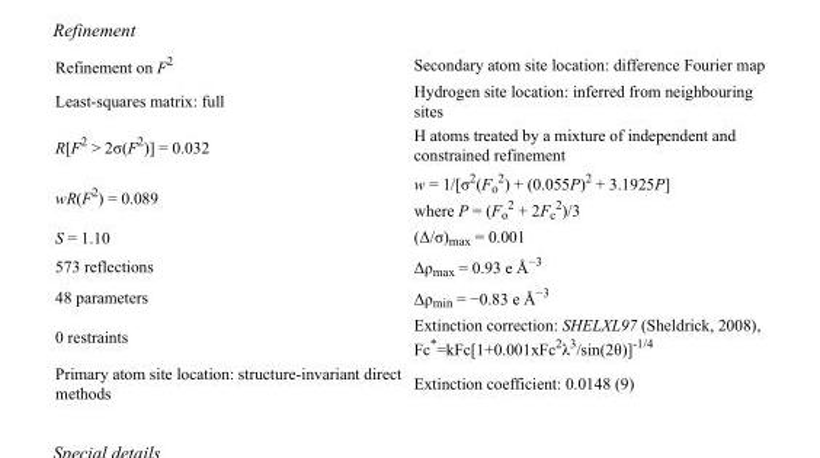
<table><tbody><tr><td>Refinement on F<sup>2</sup></td><td>Secondary atom site location: difference Fourier map</td></tr><tr><td>Least-squares matrix: full</td><td>Hydrogen site location: inferred from neighbouring sites</td></tr><tr><td>R[F<sup>2</sup> &gt; 2σ(F<sup>2</sup>)] = 0.032</td><td>H atoms treated by a mixture of independent and constrained refinement</td></tr><tr><td>wR(F<sup>2</sup>) = 0.089</td><td>w = 1/[σ<sup>2</sup>(F<sub>o</sub> <sup>2</sup>) + (0.055P)<sup>2</sup> + 3.1925P] where P = (F<sub>o</sub> <sup>2</sup> + 2F<sub>c</sub> <sup>2</sup>)/3</td></tr><tr><td>S = 1.10</td><td>(Δ/σ)<sub>max</sub> = 0.001</td></tr><tr><td>573 reflections</td><td>Δρ<sub>max</sub> = 0.93 e Å<sup>−3</sup></td></tr><tr><td>48 parameters</td><td>Δρ<sub>min</sub> = −0.83 e Å<sup>−3</sup></td></tr><tr><td>0 restraints</td><td>Extinction correction: SHELXL97 (Sheldrick, 2008), Fc*=kFc[1+0.001xFc<sup>2</sup>λ<sup>3</sup>/sin(2θ)]<sup>-1/4</sup></td></tr><tr><td>Primary atom site location: structure-invariant direct methods</td><td>Extinction coefficient: 0.0148 (9)</td></tr></tbody></table>